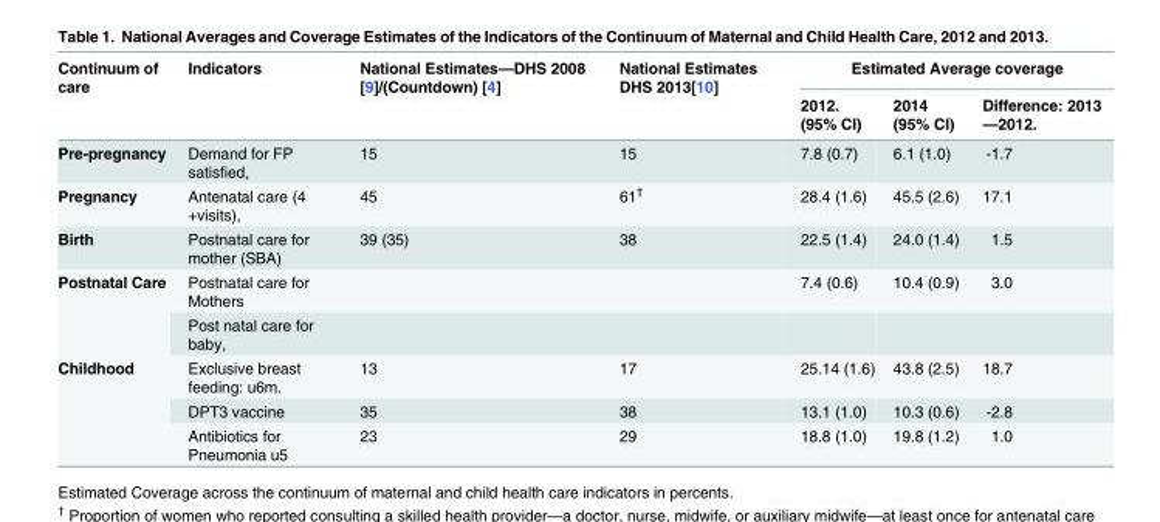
<table><thead><tr><td rowspan="2">Continuum of care</td><td rowspan="2">Indicators</td><td rowspan="2">National Estimates—DHS 2008 [9]/(Countdown) [4]</td><td rowspan="2">National Estimates DHS 2013[10]</td><td colspan="3">Estimated Average coverage</td></tr><tr><td>2012. (95% CI)</td><td>2014 (95% CI)</td><td>Difference: 2013 —2012.</td></tr></thead><tbody><tr><td>Pre-pregnancy</td><td>Demand for FP satisfied,</td><td>15</td><td>15</td><td>7.8 (0.7)</td><td>6.1 (1.0)</td><td>-1.7</td></tr><tr><td>Pregnancy</td><td>Antenatal care (4 +visits),</td><td>45</td><td>61<sup>†</sup></td><td>28.4 (1.6)</td><td>45.5 (2.6)</td><td>17.1</td></tr><tr><td>Birth</td><td>Postnatal care for mother (SBA)</td><td>39 (35)</td><td>38</td><td>22.5 (1.4)</td><td>24.0 (1.4)</td><td>1.5</td></tr><tr><td rowspan="2">Postnatal Care</td><td>Postnatal care for Mothers</td><td></td><td></td><td>7.4 (0.6)</td><td>10.4 (0.9)</td><td>3.0</td></tr><tr><td>Post natal care for baby,</td><td></td><td></td><td></td><td></td><td></td></tr><tr><td rowspan="3">Childhood</td><td>Exclusive breast feeding: u6m.</td><td>13</td><td>17</td><td>25.14 (1.6)</td><td>43.8 (2.5)</td><td>18.7</td></tr><tr><td>DPT3 vaccine</td><td>35</td><td>38</td><td>13.1 (1.0)</td><td>10.3 (0.6)</td><td>-2.8</td></tr><tr><td>Antibiotics for Pneumonia u5</td><td>23</td><td>29</td><td>18.8 (1.0)</td><td>19.8 (1.2)</td><td>1.0</td></tr></tbody></table>